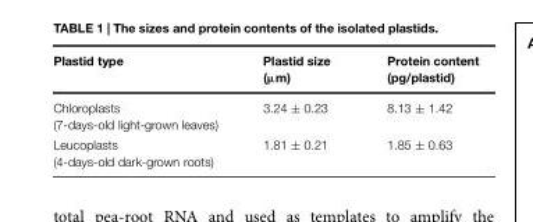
<table><thead><tr><td>Plastid type</td><td>Plastid size (μm)</td><td>Protein content (pg/plastid)</td></tr></thead><tbody><tr><td>Chloroplasts (7-days-old light-grown leaves)</td><td>3.24 ± 0.23</td><td>8.13 ± 1.42</td></tr><tr><td>Leucoplasts (4-days-old dark-grown roots)</td><td>1.81 ± 0.21</td><td>1.85 ± 0.63</td></tr></tbody></table>